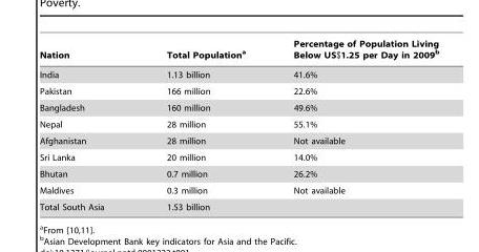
<table><thead><tr><td>Nation</td><td>Total Population<sup>a</sup></td><td>Percentage of Population Living Below US$1.25 per Day in 2009<sup>b</sup></td></tr></thead><tbody><tr><td>India</td><td>1.13 billion</td><td>41.6%</td></tr><tr><td>Pakistan</td><td>166 million</td><td>22.6%</td></tr><tr><td>Bangladesh</td><td>160 million</td><td>49.6%</td></tr><tr><td>Nepal</td><td>28 million</td><td>55.1%</td></tr><tr><td>Afghanistan</td><td>28 million</td><td>Not available</td></tr><tr><td>Sri Lanka</td><td>20 million</td><td>14.0%</td></tr><tr><td>Bhutan</td><td>0.7 million</td><td>26.2%</td></tr><tr><td>Maldives</td><td>0.3 million</td><td>Not available</td></tr><tr><td>Total South Asia</td><td>1.53 billion</td><td></td></tr></tbody></table>